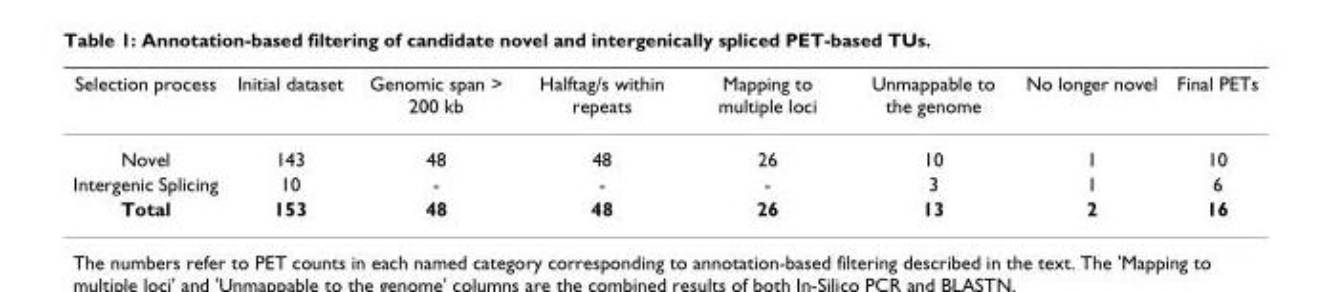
<table><thead><tr><td>Selection process</td><td>Initial dataset</td><td>Genomic span &gt; 200 kb</td><td>Halftag/s within repeats</td><td>Mapping to multiple loci</td><td>Unmappable to the genome</td><td>No longer novel</td><td>Final PETs</td></tr></thead><tbody><tr><td>Novel</td><td>143</td><td>48</td><td>48</td><td>26</td><td>10</td><td>1</td><td>10</td></tr><tr><td>Intergenic Splicing</td><td>10</td><td>-</td><td>-</td><td>-</td><td>3</td><td>1</td><td>6</td></tr><tr><td>Total</td><td>153</td><td>48</td><td>48</td><td>26</td><td>13</td><td>2</td><td>16</td></tr></tbody></table>